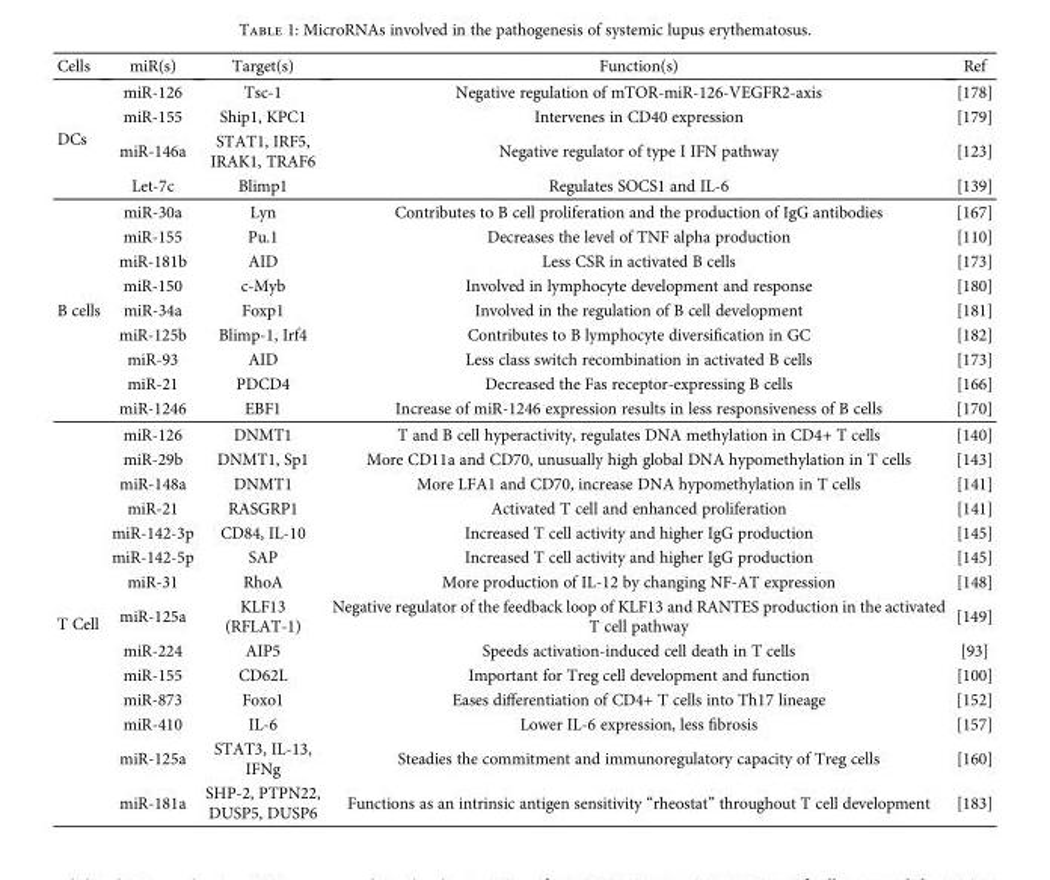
<table><thead><tr><td>Cells</td><td>miR(s)</td><td>Target(s)</td><td>Function(s)</td><td>Ref</td></tr></thead><tbody><tr><td rowspan="4">DCs</td><td>miR-126</td><td>Tsc-1</td><td>Negative regulation of mTOR-miR-126-VEGFR2-axis</td><td>[178]</td></tr><tr><td>miR-155</td><td>Ship1, KPC1</td><td>Intervenes in CD40 expression</td><td>[179]</td></tr><tr><td>miR-146a</td><td>STAT1, IRF5, IRAK1, TRAF6</td><td>Negative regulator of type I IFN pathway</td><td>[123]</td></tr><tr><td>Let-7c</td><td>Blimp1</td><td>Regulates SOCS1 and IL-6</td><td>[139]</td></tr><tr><td rowspan="9">B cells</td><td>miR-30a</td><td>Lyn</td><td>Contributes to B cell proliferation and the production of IgG antibodies</td><td>[167]</td></tr><tr><td>miR-155</td><td>Pu.1</td><td>Decreases the level of TNF alpha production</td><td>[110]</td></tr><tr><td>miR-181b</td><td>AID</td><td>Less CSR in activated B cells</td><td>[173]</td></tr><tr><td>miR-150</td><td>c-Myb</td><td>Involved in lymphocyte development and response</td><td>[180]</td></tr><tr><td>miR-34a</td><td>Foxp1</td><td>Involved in the regulation of B cell development</td><td>[181]</td></tr><tr><td>miR-125b</td><td>Blimp-1, Irf4</td><td>Contributes to B lymphocyte diversification in GC</td><td>[182]</td></tr><tr><td>miR-93</td><td>AID</td><td>Less class switch recombination in activated B cells</td><td>[173]</td></tr><tr><td>miR-21</td><td>PDCD4</td><td>Decreased the Fas receptor-expressing B cells</td><td>[166]</td></tr><tr><td>miR-1246</td><td>EBF1</td><td>Increase of miR-1246 expression results in less responsiveness of B cells</td><td>[170]</td></tr><tr><td rowspan="14">T Cell</td><td>miR-126</td><td>DNMT1</td><td>T and B cell hyperactivity, regulates DNA methylation in CD4+ T cells</td><td>[140]</td></tr><tr><td>miR-29b</td><td>DNMT1, Sp1</td><td>More CD11a and CD70, unusually high global DNA hypomethylation in T cells</td><td>[143]</td></tr><tr><td>miR-148a</td><td>DNMT1</td><td>More LFA1 and CD70, increase DNA hypomethylation in T cells</td><td>[141]</td></tr><tr><td>miR-21</td><td>RASGRP1</td><td>Activated T cell and enhanced proliferation</td><td>[141]</td></tr><tr><td>miR-142-3p</td><td>CD84, IL-10</td><td>Increased T cell activity and higher IgG production</td><td>[145]</td></tr><tr><td>miR-142-5p</td><td>SAP</td><td>Increased T cell activity and higher IgG production</td><td>[145]</td></tr><tr><td>miR-31</td><td>RhoA</td><td>More production of IL-12 by changing NF-AT expression</td><td>[148]</td></tr><tr><td>miR-125a</td><td>KLF13 (RFLAT-1)</td><td>Negative regulator of the feedback loop of KLF13 and RANTES production in the activated T cell pathway</td><td>[149]</td></tr><tr><td>miR-224</td><td>AIP5</td><td>Speeds activation-induced cell death in T cells</td><td>[93]</td></tr><tr><td>miR-155</td><td>CD62L</td><td>Important for Treg cell development and function</td><td>[100]</td></tr><tr><td>miR-873</td><td>Foxo1</td><td>Eases differentiation of CD4+ T cells into Th17 lineage</td><td>[152]</td></tr><tr><td>miR-410</td><td>IL-6</td><td>Lower IL-6 expression, less fibrosis</td><td>[157]</td></tr><tr><td>miR-125a</td><td>STAT3, IL-13, IFNg</td><td>Steadies the commitment and immunoregulatory capacity of Treg cells</td><td>[160]</td></tr><tr><td>miR-181a</td><td>SHP-2, PTPN22, DUSP5, DUSP6</td><td>Functions as an intrinsic antigen sensitivity “rheostat” throughout T cell development</td><td>[183]</td></tr></tbody></table>